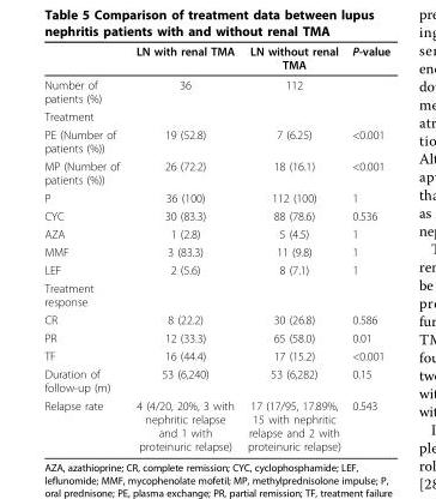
<table><thead><tr><td></td><td>LN with renal TMA</td><td>LN without renal TMA</td><td>P-value</td></tr></thead><tbody><tr><td>Number of patients (%)</td><td>36</td><td>112</td><td></td></tr><tr><td colspan="4">Treatment</td></tr><tr><td>PE (Number of patients (%))</td><td>19 (52.8)</td><td>7 (6.25)</td><td>&lt;0.001</td></tr><tr><td>MP (Number of patients (%))</td><td>26 (72.2)</td><td>18 (16.1)</td><td>&lt;0.001</td></tr><tr><td>P</td><td>36 (100)</td><td>112 (100)</td><td>1</td></tr><tr><td>CYC</td><td>30 (83.3)</td><td>88 (78.6)</td><td>0.536</td></tr><tr><td>AZA</td><td>1 (2.8)</td><td>5 (4.5)</td><td>1</td></tr><tr><td>MMF</td><td>3 (83.3)</td><td>11 (9.8)</td><td>1</td></tr><tr><td>LEF</td><td>2 (5.6)</td><td>8 (7.1)</td><td>1</td></tr><tr><td colspan="4">Treatment response</td></tr><tr><td>CR</td><td>8 (22.2)</td><td>30 (26.8)</td><td>0.586</td></tr><tr><td>PR</td><td>12 (33.3)</td><td>65 (58.0)</td><td>0.01</td></tr><tr><td>TF</td><td>16 (44.4)</td><td>17 (15.2)</td><td>&lt;0.001</td></tr><tr><td>Duration of follow-up (m)</td><td>53 (6,240)</td><td>53 (6,282)</td><td>0.15</td></tr><tr><td>Relapse rate</td><td>4 (4/20, 20%, 3 with nephritic relapse and 1 with proteinuric relapse)</td><td>17 (17/95, 17.89%, 15 with nephritic relapse and 2 with proteinuric relapse)</td><td>0.543</td></tr></tbody></table>